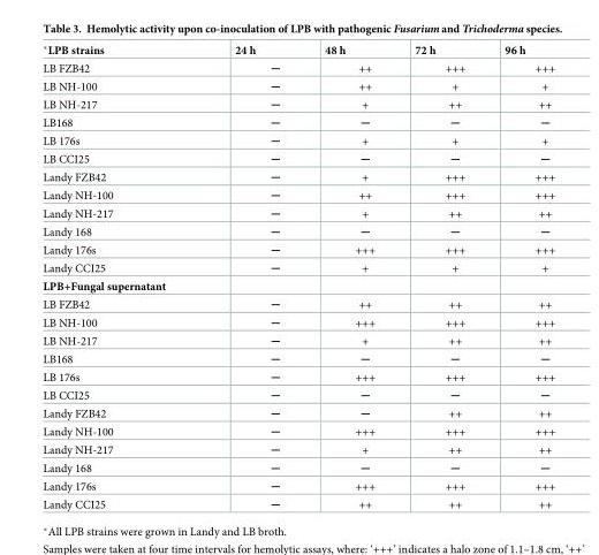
<table><tbody><tr><td>*LPB strains</td><td>24 h</td><td>48 h</td><td>72 h</td><td>96 h</td></tr><tr><td>LB FZB42</td><td>─</td><td>++</td><td>+++</td><td>+++</td></tr><tr><td>LB NH-100</td><td>─</td><td>++</td><td>+</td><td>+</td></tr><tr><td>LB NH-217</td><td>─</td><td>+</td><td>++</td><td>++</td></tr><tr><td>LB168</td><td>─</td><td>─</td><td>─</td><td>─</td></tr><tr><td>LB 176s</td><td>─</td><td>+</td><td>+</td><td>+</td></tr><tr><td>LB CCI25</td><td>─</td><td>─</td><td>─</td><td>─</td></tr><tr><td>Landy FZB42</td><td>─</td><td>+</td><td>+++</td><td>+++</td></tr><tr><td>Landy NH-100</td><td>─</td><td>++</td><td>+++</td><td>+++</td></tr><tr><td>Landy NH-217</td><td>─</td><td>+</td><td>++</td><td>++</td></tr><tr><td>Landy 168</td><td>─</td><td>─</td><td>─</td><td>─</td></tr><tr><td>Landy 176s</td><td>─</td><td>+++</td><td>+++</td><td>+++</td></tr><tr><td>Landy CCI25</td><td>─</td><td>+</td><td>+</td><td>+</td></tr><tr><td colspan="5">LPB+Fungal supernatant</td></tr><tr><td>LB FZB42</td><td>─</td><td>++</td><td>++</td><td>++</td></tr><tr><td>LB NH-100</td><td>─</td><td>+++</td><td>+++</td><td>+++</td></tr><tr><td>LB NH-217</td><td>─</td><td>+</td><td>++</td><td>++</td></tr><tr><td>LB168</td><td>─</td><td>─</td><td>─</td><td>─</td></tr><tr><td>LB 176s</td><td>─</td><td>+++</td><td>+++</td><td>+++</td></tr><tr><td>LB CCI25</td><td>─</td><td>─</td><td>─</td><td>─</td></tr><tr><td>Landy FZB42</td><td>─</td><td>─</td><td>++</td><td>++</td></tr><tr><td>Landy NH-100</td><td>─</td><td>+++</td><td>+++</td><td>+++</td></tr><tr><td>Landy NH-217</td><td>─</td><td>+</td><td>++</td><td>++</td></tr><tr><td>Landy 168</td><td>─</td><td>─</td><td>─</td><td>─</td></tr><tr><td>Landy 176s</td><td>─</td><td>+++</td><td>+++</td><td>+++</td></tr><tr><td>Landy CCI25</td><td>─</td><td>++</td><td>++</td><td>++</td></tr></tbody></table>